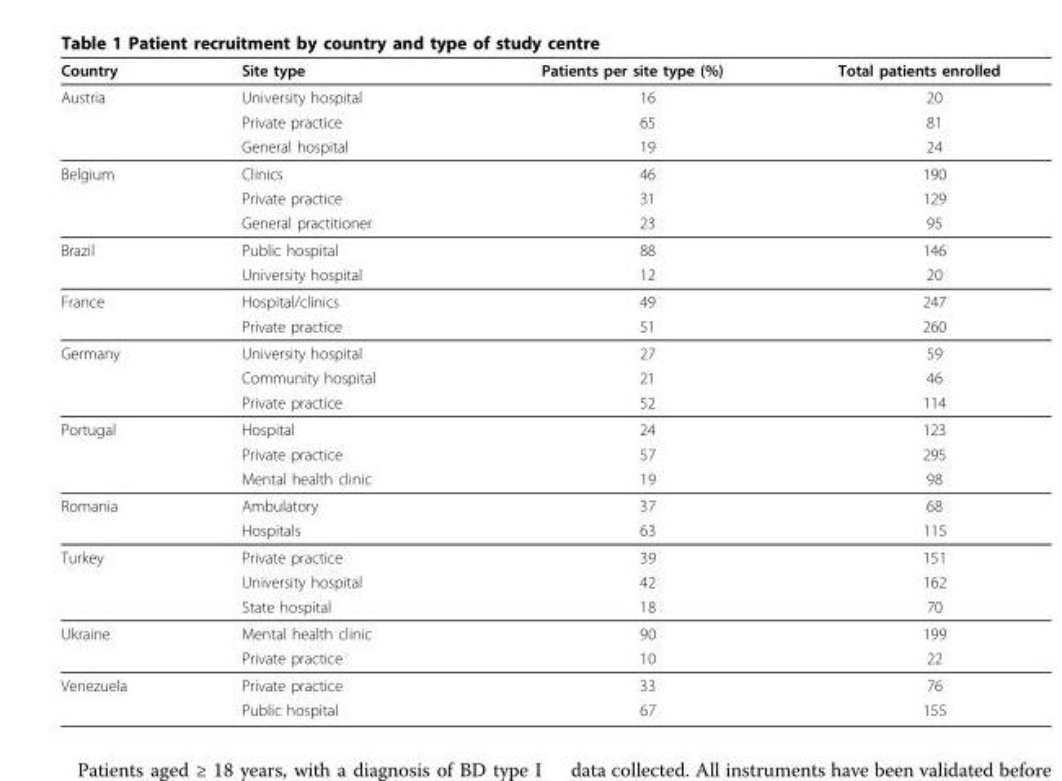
<table><thead><tr><td>Country</td><td>Site type</td><td>Patients per site type (%)</td><td>Total patients enrolled</td></tr></thead><tbody><tr><td rowspan="3">Austria</td><td>University hospital</td><td>16</td><td>20</td></tr><tr><td>Private practice</td><td>65</td><td>81</td></tr><tr><td>General hospital</td><td>19</td><td>24</td></tr><tr><td rowspan="3">Belgium</td><td>Clinics</td><td>46</td><td>190</td></tr><tr><td>Private practice</td><td>31</td><td>129</td></tr><tr><td>General practitioner</td><td>23</td><td>95</td></tr><tr><td rowspan="2">Brazil</td><td>Public hospital</td><td>88</td><td>146</td></tr><tr><td>University hospital</td><td>12</td><td>20</td></tr><tr><td rowspan="2">France</td><td>Hospital/clinics</td><td>49</td><td>247</td></tr><tr><td>Private practice</td><td>51</td><td>260</td></tr><tr><td rowspan="3">Germany</td><td>University hospital</td><td>27</td><td>59</td></tr><tr><td>Community hospital</td><td>21</td><td>46</td></tr><tr><td>Private practice</td><td>52</td><td>114</td></tr><tr><td rowspan="3">Portugal</td><td>Hospital</td><td>24</td><td>123</td></tr><tr><td>Private practice</td><td>57</td><td>295</td></tr><tr><td>Mental health clinic</td><td>19</td><td>98</td></tr><tr><td rowspan="2">Romania</td><td>Ambulatory</td><td>37</td><td>68</td></tr><tr><td>Hospitals</td><td>63</td><td>115</td></tr><tr><td rowspan="3">Turkey</td><td>Private practice</td><td>39</td><td>151</td></tr><tr><td>University hospital</td><td>42</td><td>162</td></tr><tr><td>State hospital</td><td>18</td><td>70</td></tr><tr><td rowspan="2">Ukraine</td><td>Mental health clinic</td><td>90</td><td>199</td></tr><tr><td>Private practice</td><td>10</td><td>22</td></tr><tr><td rowspan="2">Venezuela</td><td>Private practice</td><td>33</td><td>76</td></tr><tr><td>Public hospital</td><td>67</td><td>155</td></tr></tbody></table>